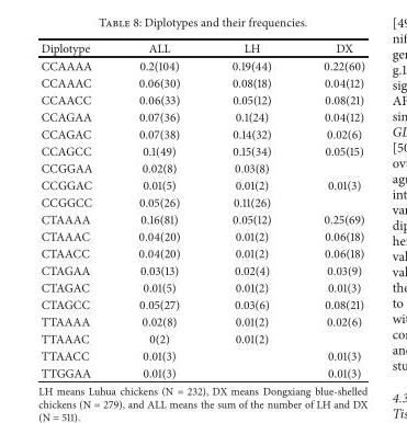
<table><thead><tr><td>Diplotype</td><td>ALL</td><td>LH</td><td>DX</td></tr></thead><tbody><tr><td>CCAAAA</td><td>0.2(104)</td><td>0.19(44)</td><td>0.22(60)</td></tr><tr><td>CCAAAC</td><td>0.06(30)</td><td>0.08(18)</td><td>0.04(12)</td></tr><tr><td>CCAACC</td><td>0.06(33)</td><td>0.05(12)</td><td>0.08(21)</td></tr><tr><td>CCAGAA</td><td>0.07(36)</td><td>0.1(24)</td><td>0.04(12)</td></tr><tr><td>CCAGAC</td><td>0.07(38)</td><td>0.14(32)</td><td>0.02(6)</td></tr><tr><td>CCAGCC</td><td>0.1(49)</td><td>0.15(34)</td><td>0.05(15)</td></tr><tr><td>CCGGAA</td><td>0.02(8)</td><td>0.03(8)</td><td></td></tr><tr><td>CCGGAC</td><td>0.01(5)</td><td>0.01(2)</td><td>0.01(3)</td></tr><tr><td>CCGGCC</td><td>0.05(26)</td><td>0.11(26)</td><td></td></tr><tr><td>CTAAAA</td><td>0.16(81)</td><td>0.05(12)</td><td>0.25(69)</td></tr><tr><td>CTAAAC</td><td>0.04(20)</td><td>0.01(2)</td><td>0.06(18)</td></tr><tr><td>CTAACC</td><td>0.04(20)</td><td>0.01(2)</td><td>0.06(18)</td></tr><tr><td>CTAGAA</td><td>0.03(13)</td><td>0.02(4)</td><td>0.03(9)</td></tr><tr><td>CTAGAC</td><td>0.01(5)</td><td>0.01(2)</td><td>0.01(3)</td></tr><tr><td>CTAGCC</td><td>0.05(27)</td><td>0.03(6)</td><td>0.08(21)</td></tr><tr><td>TTAAAA</td><td>0.02(8)</td><td>0.01(2)</td><td>0.02(6)</td></tr><tr><td>TTAAAC</td><td>0(2)</td><td>0.01(2)</td><td></td></tr><tr><td>TTAACC</td><td>0.01(3)</td><td></td><td>0.01(3)</td></tr><tr><td>TTGGAA</td><td>0.01(3)</td><td></td><td>0.01(3)</td></tr></tbody></table>